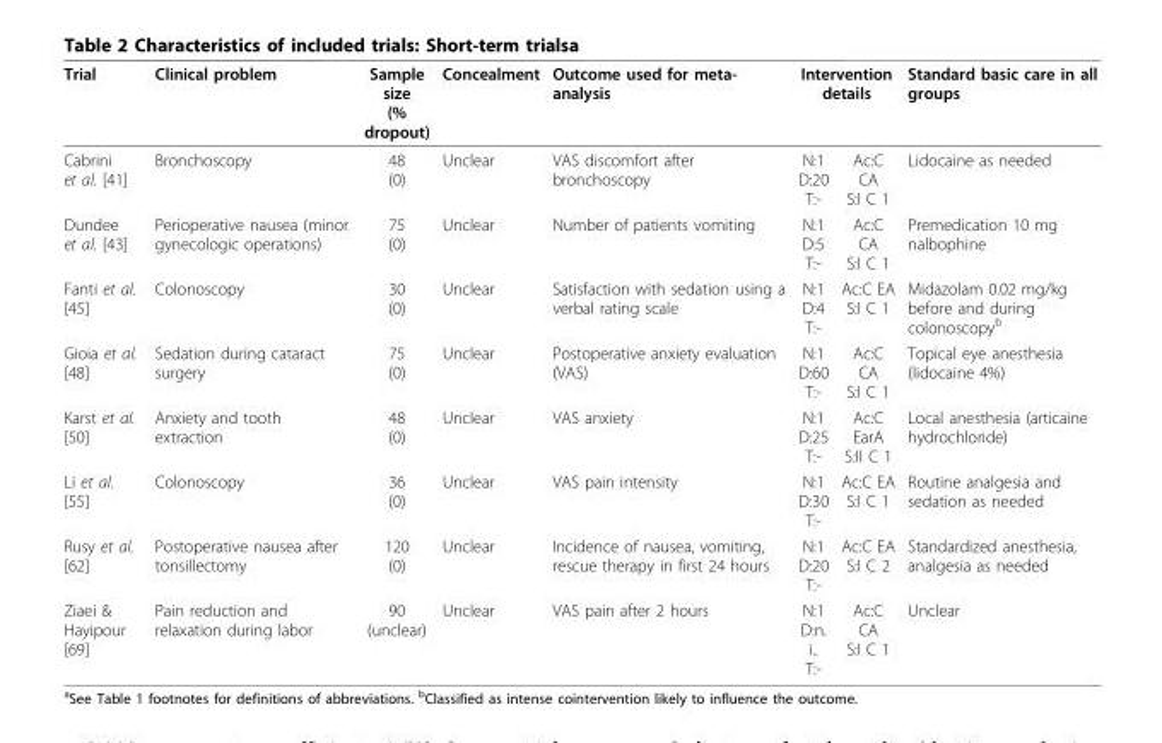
<table><thead><tr><td rowspan="2">Trial Cabrini et al. [41]</td><td rowspan="2">Clinical problem Bronchoscopy</td><td rowspan="2">Sample size (% dropout) 48 (0)</td><td rowspan="2">Concealment Unclear</td><td rowspan="2">Outcome used for meta- analysis VAS discomfort after bronchoscopy</td><td colspan="2">Intervention details</td><td rowspan="2">Standard basic care in all groups Lidocaine as needed</td></tr><tr><td>N:1 D:20 T:-</td><td>Ac:C CA S:I C 1</td></tr></thead><tbody><tr><td>Dundee et al. [43]</td><td>Perioperative nausea (minor gynecologic operations)</td><td>75 (0)</td><td>Unclear</td><td>Number of patients vomiting</td><td>N:1 D:5 T:-</td><td>Ac:C CA S:I C 1</td><td>Premedication 10 mg nalbophine</td></tr><tr><td>Fanti et al. [45]</td><td>Colonoscopy</td><td>30 (0)</td><td>Unclear</td><td>Satisfaction with sedation using a verbal rating scale</td><td>N:1 D:4 T:-</td><td>Ac:C EA S:I C 1</td><td>Midazolam 0.02 mg/kg before and during colonoscopy<sup>b</sup></td></tr><tr><td>Gioia et al. [48]</td><td>Sedation during cataract surgery</td><td>75 (0)</td><td>Unclear</td><td>Postoperative anxiety evaluation (VAS)</td><td>N:1 D:60 T:-</td><td>Ac:C CA S:I C 1</td><td>Topical eye anesthesia (lidocaine 4%)</td></tr><tr><td>Karst et al. [50]</td><td>Anxiety and tooth extraction</td><td>48 (0)</td><td>Unclear</td><td>VAS anxiety</td><td>N:1 D:25 T:-</td><td>Ac:C EarA S:II C 1</td><td>Local anesthesia (articaine hydrochloride)</td></tr><tr><td>Li et al. [55]</td><td>Colonoscopy</td><td>36 (0)</td><td>Unclear</td><td>VAS pain intensity</td><td>N:1 D:30 T:-</td><td>Ac:C EA S:I C 1</td><td>Routine analgesia and sedation as needed</td></tr><tr><td>Rusy et al. [62]</td><td>Postoperative nausea after tonsillectomy</td><td>120 (0)</td><td>Unclear</td><td>Incidence of nausea, vomiting, rescue therapy in first 24 hours</td><td>N:1 D:20 T:-</td><td>Ac:C EA S:I C 2</td><td>Standardized anesthesia, analgesia as needed</td></tr><tr><td>Ziaei &amp; Hayipour [69]</td><td>Pain reduction and relaxation during labor</td><td>90 (unclear)</td><td>Unclear</td><td>VAS pain after 2 hours</td><td>N:1 D:n. i.. T:-</td><td>Ac:C CA S:I C 1</td><td>Unclear</td></tr></tbody></table>